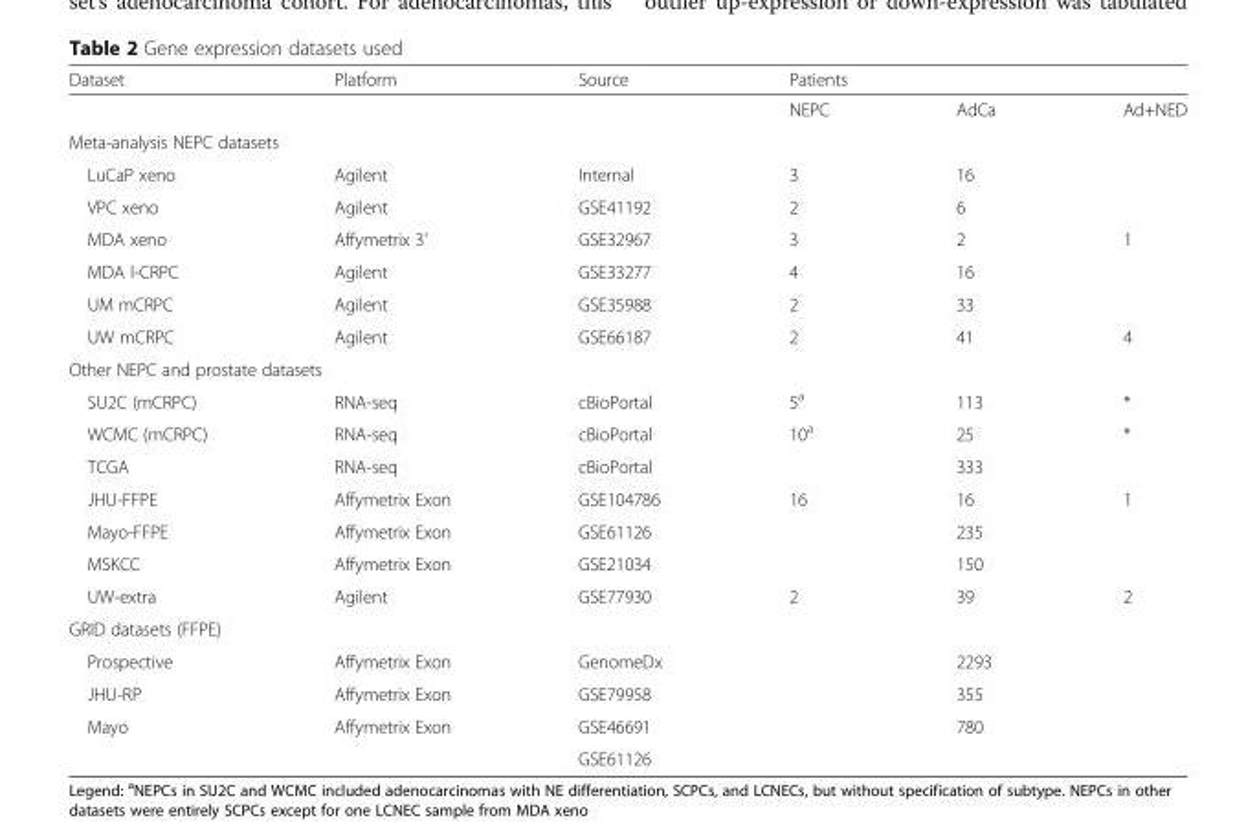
<table><thead><tr><td rowspan="2">Dataset</td><td rowspan="2">Platform</td><td rowspan="2">Source</td><td colspan="3">Patients</td></tr><tr><td>NEPC</td><td>AdCa</td><td>Ad+NED</td></tr></thead><tbody><tr><td colspan="6">Meta-analysis NEPC datasets</td></tr><tr><td>LuCaP xeno</td><td>Agilent</td><td>Internal</td><td>3</td><td>16</td><td></td></tr><tr><td>VPC xeno</td><td>Agilent</td><td>GSE41192</td><td>2</td><td>6</td><td></td></tr><tr><td>MDA xeno</td><td>Affymetrix 3&#x27;</td><td>GSE32967</td><td>3</td><td>2</td><td>1</td></tr><tr><td>MDA l-CRPC</td><td>Agilent</td><td>GSE33277</td><td>4</td><td>16</td><td></td></tr><tr><td>UM mCRPC</td><td>Agilent</td><td>GSE35988</td><td>2</td><td>33</td><td></td></tr><tr><td>UW mCRPC</td><td>Agilent</td><td>GSE66187</td><td>2</td><td>41</td><td>4</td></tr><tr><td colspan="6">Other NEPC and prostate datasets</td></tr><tr><td>SU2C (mCRPC)</td><td>RNA-seq</td><td>cBioPortal</td><td>5<sup>a</sup></td><td>113</td><td>*</td></tr><tr><td>WCMC (mCRPC)</td><td>RNA-seq</td><td>cBioPortal</td><td>10<sup>a</sup></td><td>25</td><td>*</td></tr><tr><td>TCGA</td><td>RNA-seq</td><td>cBioPortal</td><td></td><td>333</td><td></td></tr><tr><td>JHU-FFPE</td><td>Affymetrix Exon</td><td>GSE104786</td><td>16</td><td>16</td><td>1</td></tr><tr><td>Mayo-FFPE</td><td>Affymetrix Exon</td><td>GSE61126</td><td></td><td>235</td><td></td></tr><tr><td>MSKCC</td><td>Affymetrix Exon</td><td>GSE21034</td><td></td><td>150</td><td></td></tr><tr><td>UW-extra</td><td>Agilent</td><td>GSE77930</td><td>2</td><td>39</td><td>2</td></tr><tr><td colspan="6">GRID datasets (FFPE)</td></tr><tr><td>Prospective</td><td>Affymetrix Exon</td><td>GenomeDx</td><td></td><td>2293</td><td></td></tr><tr><td>JHU-RP</td><td>Affymetrix Exon</td><td>GSE79958</td><td></td><td>355</td><td></td></tr><tr><td rowspan="2">Mayo</td><td>Affymetrix Exon</td><td>GSE46691</td><td></td><td>780</td><td></td></tr><tr><td></td><td>GSE61126</td><td></td><td></td><td></td></tr></tbody></table>